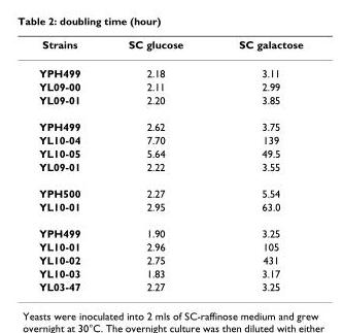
<table><thead><tr><td>Strains</td><td>SC glucose</td><td>SC galactose</td></tr></thead><tbody><tr><td>YPH499</td><td>2.18</td><td>3.11</td></tr><tr><td>YL09-00</td><td>2.11</td><td>2.99</td></tr><tr><td>YL09-01</td><td>2.20</td><td>3.85</td></tr><tr><td>YPH499</td><td>2.62</td><td>3.75</td></tr><tr><td>YL10-04</td><td>7.70</td><td>139</td></tr><tr><td>YL10-05</td><td>5.64</td><td>49.5</td></tr><tr><td>YL09-01</td><td>2.22</td><td>3.55</td></tr><tr><td>YPH500</td><td>2.27</td><td>5.54</td></tr><tr><td>YL10-01</td><td>2.95</td><td>63.0</td></tr><tr><td>YPH499</td><td>1.90</td><td>3.25</td></tr><tr><td>YL10-01</td><td>2.96</td><td>105</td></tr><tr><td>YL10-02</td><td>2.75</td><td>431</td></tr><tr><td>YL10-03</td><td>1.83</td><td>3.17</td></tr><tr><td>YL03-47</td><td>2.27</td><td>3.25</td></tr></tbody></table>